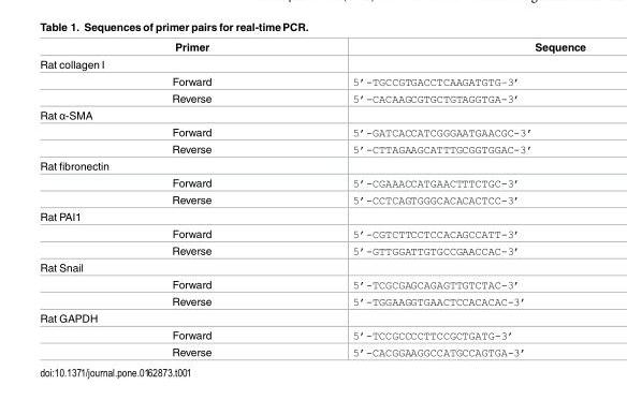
<table><thead><tr><td>Primer</td><td>Sequence</td></tr></thead><tbody><tr><td colspan="2">Rat collagen I</td></tr><tr><td>Forward</td><td>5’-TGCCGTGACCTCAAGATGTG–3’</td></tr><tr><td>Reverse</td><td>5’-CACAAGCGTGCTGTAGGTGA-3’</td></tr><tr><td colspan="2">Rat α-SMA</td></tr><tr><td>Forward</td><td>5’-GATCACCATCGGGAATGAACGC-3’</td></tr><tr><td>Reverse</td><td>5’-CTTAGAAGCATTTGCGGTGGAC-3’</td></tr><tr><td colspan="2">Rat fibronectin</td></tr><tr><td>Forward</td><td>5’-CGAAACCATGAACTTTCTGC-3’</td></tr><tr><td>Reverse</td><td>5’-CCTCAGTGGGCACACACTCC-3’</td></tr><tr><td colspan="2">Rat PAI1</td></tr><tr><td>Forward</td><td>5’-CGTCTTCCTCCACAGCCATT-3’</td></tr><tr><td>Reverse</td><td>5’-GTTGGATTGTGCCGAACCAC-3’</td></tr><tr><td colspan="2">Rat Snail</td></tr><tr><td>Forward</td><td>5’-TCGCGAGCAGAGTTGTCTAC-3’</td></tr><tr><td>Reverse</td><td>5’-TGGAAGGTGAACTCCACACAC-3’</td></tr><tr><td colspan="2">Rat GAPDH</td></tr><tr><td>Forward</td><td>5’-TCCGCCCCTTCCGCTGATG-3’</td></tr><tr><td>Reverse</td><td>5’-CACGGAAGGCCATGCCAGTGA-3’</td></tr></tbody></table>